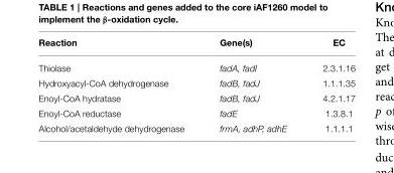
<table><thead><tr><td>Reaction</td><td>Gene(s)</td><td>EC</td></tr></thead><tbody><tr><td>Thiolase</td><td>fadA, fadI</td><td>2.3.1.16</td></tr><tr><td>Hydroxyacyl-CoA dehydrogenase</td><td>fadB, fadJ</td><td>1.1.1.35</td></tr><tr><td>Enoyl-CoA hydratase</td><td>fadB, fadJ</td><td>4.2.1.17</td></tr><tr><td>Enoyl-CoA reductase</td><td>fadE</td><td>1.3.8.1</td></tr><tr><td>Alcohol/acetaldehyde dehydrogenase</td><td>frmA, adhP, adhE</td><td>1.1.1.1</td></tr></tbody></table>